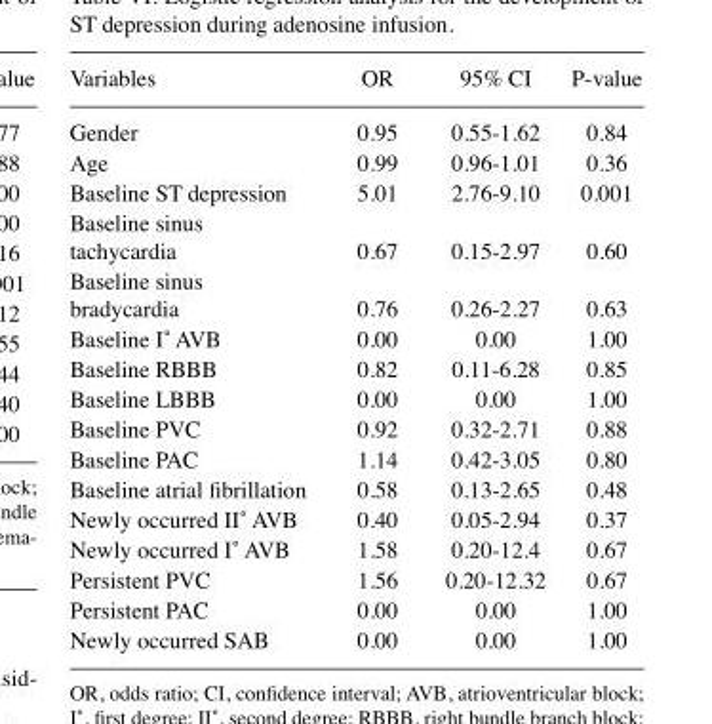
<table><thead><tr><td>Variables</td><td>OR</td><td>95% CI</td><td>P-value</td></tr></thead><tbody><tr><td>Gender</td><td>0.95</td><td>0.55-1.62</td><td>0.84</td></tr><tr><td>Age</td><td>0.99</td><td>0.96-1.01</td><td>0.36</td></tr><tr><td>Baseline ST depression</td><td>5.01</td><td>2.76-9.10</td><td>0.001</td></tr><tr><td>Baseline sinus tachycardia</td><td>0.67</td><td>0.15-2.97</td><td>0.60</td></tr><tr><td>Baseline sinus bradycardia</td><td>0.76</td><td>0.26-2.27</td><td>0.63</td></tr><tr><td>Baseline Ⅰ˚ AVB</td><td>0.00</td><td>0.00</td><td>1.00</td></tr><tr><td>Baseline RBBB</td><td>0.82</td><td>0.11-6.28</td><td>0.85</td></tr><tr><td>Baseline LBBB</td><td>0.00</td><td>0.00</td><td>1.00</td></tr><tr><td>Baseline PVC</td><td>0.92</td><td>0.32-2.71</td><td>0.88</td></tr><tr><td>Baseline PAC</td><td>1.14</td><td>0.42-3.05</td><td>0.80</td></tr><tr><td>Baseline atrial fibrillation</td><td>0.58</td><td>0.13‑2.65</td><td>0.48</td></tr><tr><td>Newly occurred Ⅱ˚ AVB</td><td>0.40</td><td>0.05‑2.94</td><td>0.37</td></tr><tr><td>Newly occurred Ⅰ˚ AVB</td><td>1.58</td><td>0.20‑12.4</td><td>0.67</td></tr><tr><td>Persistent PVC</td><td>1.56</td><td>0.20-12.32</td><td>0.67</td></tr><tr><td>Persistent PAC</td><td>0.00</td><td>0.00</td><td>1.00</td></tr><tr><td>Newly occurred SAB</td><td>0.00</td><td>0.00</td><td>1.00</td></tr></tbody></table>